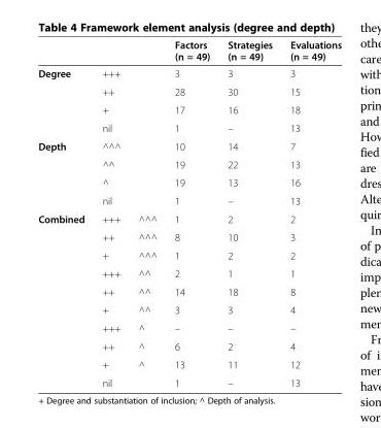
<table><thead><tr><td></td><td></td><td></td><td>Factors (n = 49)</td><td>Strategies (n = 49)</td><td>Evaluations (n = 49)</td></tr></thead><tbody><tr><td rowspan="4">Degree</td><td colspan="2">+++</td><td>3</td><td>3</td><td>3</td></tr><tr><td colspan="2">++</td><td>28</td><td>30</td><td>15</td></tr><tr><td colspan="2">+</td><td>17</td><td>16</td><td>18</td></tr><tr><td colspan="2">nil</td><td>1</td><td>–</td><td>13</td></tr><tr><td rowspan="4">Depth</td><td colspan="2">^^^</td><td>10</td><td>14</td><td>7</td></tr><tr><td colspan="2">^^</td><td>19</td><td>22</td><td>13</td></tr><tr><td colspan="2">^</td><td>19</td><td>13</td><td>16</td></tr><tr><td colspan="2">nil</td><td>1</td><td>–</td><td>13</td></tr><tr><td rowspan="10">Combined</td><td>+++</td><td>^^^</td><td>1</td><td>2</td><td>2</td></tr><tr><td>++</td><td>^^^</td><td>8</td><td>10</td><td>3</td></tr><tr><td>+</td><td>^^^</td><td>1</td><td>2</td><td>2</td></tr><tr><td>+++</td><td>^^</td><td>2</td><td>1</td><td>1</td></tr><tr><td>++</td><td>^^</td><td>14</td><td>18</td><td>8</td></tr><tr><td>+</td><td>^^</td><td>3</td><td>3</td><td>4</td></tr><tr><td>+++</td><td>^</td><td>–</td><td>–</td><td>–</td></tr><tr><td>++</td><td>^</td><td>6</td><td>2</td><td>4</td></tr><tr><td>+</td><td>^</td><td>13</td><td>11</td><td>12</td></tr><tr><td colspan="2">nil</td><td>1</td><td>–</td><td>13</td></tr></tbody></table>